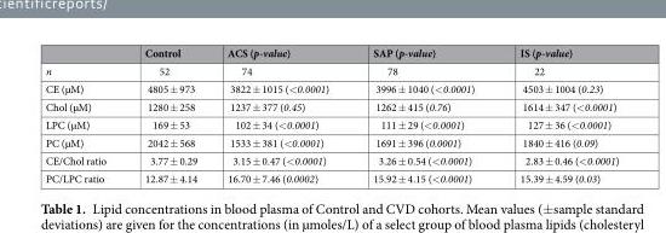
<table><thead><tr><td></td><td>Control</td><td>ACS (p-value)</td><td>SAP (p-value)</td><td>IS (p-value)</td></tr></thead><tbody><tr><td>n</td><td>52</td><td>74</td><td>78</td><td>22</td></tr><tr><td>CE (µM)</td><td>4805 ± 973</td><td>3822 ± 1015 (&lt;0.0001)</td><td>3996 ± 1040 (&lt;0.0001)</td><td>4503 ± 1004 (0.23)</td></tr><tr><td>Chol (µM)</td><td>1280 ± 258</td><td>1237 ± 377 (0.45)</td><td>1262 ± 415 (0.76)</td><td>1614 ± 347 (&lt;0.0001)</td></tr><tr><td>LPC (µM)</td><td>169 ± 53</td><td>102 ± 34 (&lt;0.0001)</td><td>111 ± 29 (&lt;0.0001)</td><td>127 ± 36 (&lt;0.0001)</td></tr><tr><td>PC (µM)</td><td>2042 ± 568</td><td>1533 ± 381 (&lt;0.0001)</td><td>1691 ± 396 (0.0001)</td><td>1840 ± 416 (0.09)</td></tr><tr><td>CE/Chol ratio</td><td>3.77 ± 0.29</td><td>3.15 ± 0.47 (&lt;0.0001)</td><td>3.26 ± 0.54 (&lt;0.0001)</td><td>2.83 ± 0.46 (&lt;0.0001)</td></tr><tr><td>PC/LPC ratio</td><td>12.87 ± 4.14</td><td>16.70 ± 7.46 (0.0002)</td><td>15.92 ± 4.15 (&lt;0.0001)</td><td>15.39 ± 4.59 (0.03)</td></tr></tbody></table>